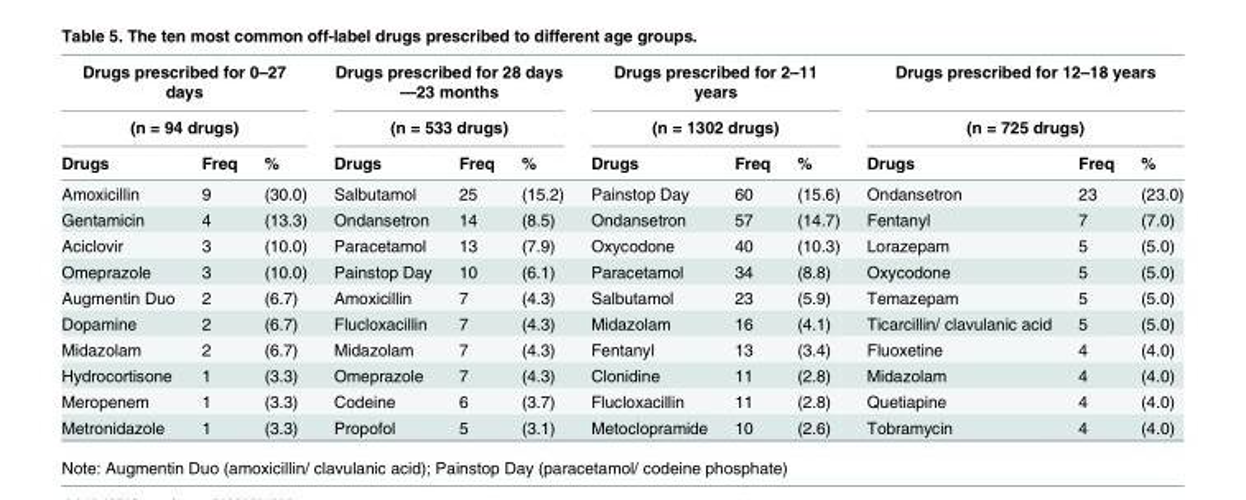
<table><thead><tr><td rowspan="2" colspan="3">Drugs prescribed for 0–27 days (n = 94 drugs)</td><td rowspan="2" colspan="3">Drugs prescribed for 28 days —23 months (n = 533 drugs)</td><td rowspan="2" colspan="3">Drugs prescribed for 2–11 years (n = 1302 drugs)</td><td rowspan="2" colspan="3">Drugs prescribed for 12–18 years (n = 725 drugs)</td></tr><tr></tr><tr><td>Drugs</td><td>Freq</td><td>%</td><td>Drugs</td><td>Freq</td><td>%</td><td>Drugs</td><td>Freq</td><td>%</td><td>Drugs</td><td>Freq</td><td>%</td></tr></thead><tbody><tr><td>Amoxicillin</td><td>9</td><td>(30.0)</td><td>Salbutamol</td><td>25</td><td>(15.2)</td><td>Painstop Day</td><td>60</td><td>(15.6)</td><td>Ondansetron</td><td>23</td><td>(23.0)</td></tr><tr><td>Gentamicin</td><td>4</td><td>(13.3)</td><td>Ondansetron</td><td>14</td><td>(8.5)</td><td>Ondansetron</td><td>57</td><td>(14.7)</td><td>Fentanyl</td><td>7</td><td>(7.0)</td></tr><tr><td>Aciclovir</td><td>3</td><td>(10.0)</td><td>Paracetamol</td><td>13</td><td>(7.9)</td><td>Oxycodone</td><td>40</td><td>(10.3)</td><td>Lorazepam</td><td>5</td><td>(5.0)</td></tr><tr><td>Omeprazole</td><td>3</td><td>(10.0)</td><td>Painstop Day</td><td>10</td><td>(6.1)</td><td>Paracetamol</td><td>34</td><td>(8.8)</td><td>Oxycodone</td><td>5</td><td>(5.0)</td></tr><tr><td>Augmentin Duo</td><td>2</td><td>(6.7)</td><td>Amoxicillin</td><td>7</td><td>(4.3)</td><td>Salbutamol</td><td>23</td><td>(5.9)</td><td>Temazepam</td><td>5</td><td>(5.0)</td></tr><tr><td>Dopamine</td><td>2</td><td>(6.7)</td><td>Flucloxacillin</td><td>7</td><td>(4.3)</td><td>Midazolam</td><td>16</td><td>(4.1)</td><td>Ticarcillin/ clavulanic acid</td><td>5</td><td>(5.0)</td></tr><tr><td>Midazolam</td><td>2</td><td>(6.7)</td><td>Midazolam</td><td>7</td><td>(4.3)</td><td>Fentanyl</td><td>13</td><td>(3.4)</td><td>Fluoxetine</td><td>4</td><td>(4.0)</td></tr><tr><td>Hydrocortisone</td><td>1</td><td>(3.3)</td><td>Omeprazole</td><td>7</td><td>(4.3)</td><td>Clonidine</td><td>11</td><td>(2.8)</td><td>Midazolam</td><td>4</td><td>(4.0)</td></tr><tr><td>Meropenem</td><td>1</td><td>(3.3)</td><td>Codeine</td><td>6</td><td>(3.7)</td><td>Flucloxacillin</td><td>11</td><td>(2.8)</td><td>Quetiapine</td><td>4</td><td>(4.0)</td></tr><tr><td>Metronidazole</td><td>1</td><td>(3.3)</td><td>Propofol</td><td>5</td><td>(3.1)</td><td>Metoclopramide</td><td>10</td><td>(2.6)</td><td>Tobramycin</td><td>4</td><td>(4.0)</td></tr></tbody></table>